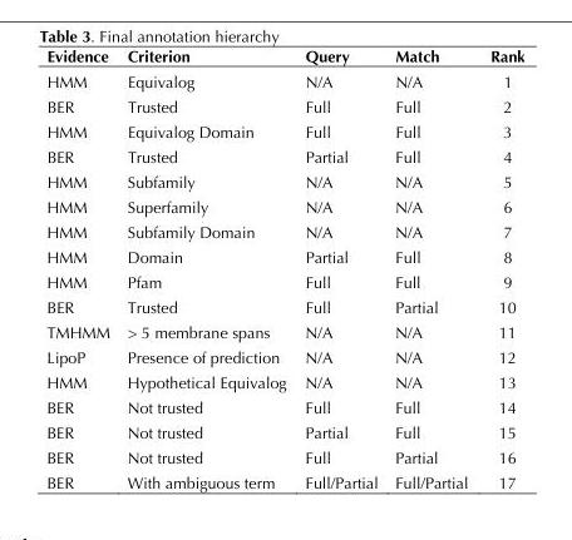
<table><thead><tr><td>Evidence</td><td>Criterion</td><td>Query</td><td>Match</td><td>Rank</td></tr></thead><tbody><tr><td>HMM</td><td>Equivalog</td><td>N/A</td><td>N/A</td><td>1</td></tr><tr><td>BER</td><td>Trusted</td><td>Full</td><td>Full</td><td>2</td></tr><tr><td>HMM</td><td>Equivalog Domain</td><td>Full</td><td>Full</td><td>3</td></tr><tr><td>BER</td><td>Trusted</td><td>Partial</td><td>Full</td><td>4</td></tr><tr><td>HMM</td><td>Subfamily</td><td>N/A</td><td>N/A</td><td>5</td></tr><tr><td>HMM</td><td>Superfamily</td><td>N/A</td><td>N/A</td><td>6</td></tr><tr><td>HMM</td><td>Subfamily Domain</td><td>N/A</td><td>N/A</td><td>7</td></tr><tr><td>HMM</td><td>Domain</td><td>Partial</td><td>Full</td><td>8</td></tr><tr><td>HMM</td><td>Pfam</td><td>Full</td><td>Full</td><td>9</td></tr><tr><td>BER</td><td>Trusted</td><td>Full</td><td>Partial</td><td>10</td></tr><tr><td>TMHMM</td><td>&gt; 5 membrane spans</td><td>N/A</td><td>N/A</td><td>11</td></tr><tr><td>LipoP</td><td>Presence of prediction</td><td>N/A</td><td>N/A</td><td>12</td></tr><tr><td>HMM</td><td>Hypothetical Equivalog</td><td>N/A</td><td>N/A</td><td>13</td></tr><tr><td>BER</td><td>Not trusted</td><td>Full</td><td>Full</td><td>14</td></tr><tr><td>BER</td><td>Not trusted</td><td>Partial</td><td>Full</td><td>15</td></tr><tr><td>BER</td><td>Not trusted</td><td>Full</td><td>Partial</td><td>16</td></tr><tr><td>BER</td><td>With ambiguous term</td><td>Full/Partial</td><td>Full/Partial</td><td>17</td></tr></tbody></table>